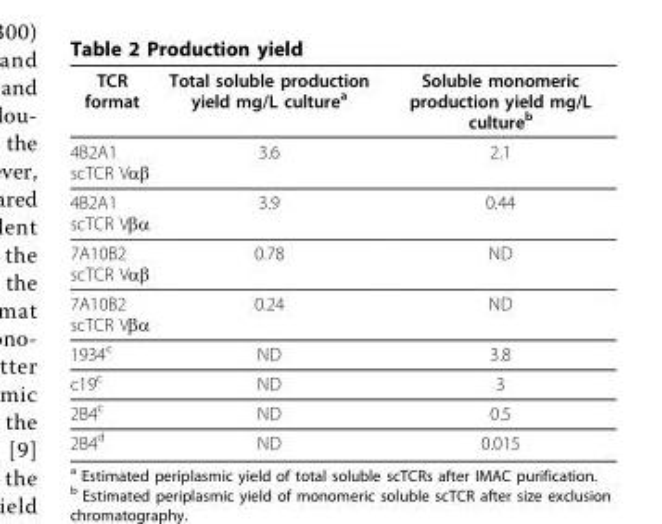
<table><thead><tr><td>TCR format</td><td>Total soluble production yield mg/L culture<sup>a</sup></td><td>Soluble monomeric production yield mg/L culture<sup>b</sup></td></tr></thead><tbody><tr><td>4B2A1 scTCR Vαβ</td><td>3.6</td><td>2.1</td></tr><tr><td>4B2A1 scTCR Vβα</td><td>3.9</td><td>0.44</td></tr><tr><td>7A10B2 scTCR Vαβ</td><td>0.78</td><td>ND</td></tr><tr><td>7A10B2 scTCR Vβα</td><td>0.24</td><td>ND</td></tr><tr><td>1934<sup>c</sup></td><td>ND</td><td>3.8</td></tr><tr><td>c19<sup>c</sup></td><td>ND</td><td>3</td></tr><tr><td>2B4<sup>c</sup></td><td>ND</td><td>0.5</td></tr><tr><td>2B4<sup>d</sup></td><td>ND</td><td>0.015</td></tr></tbody></table>